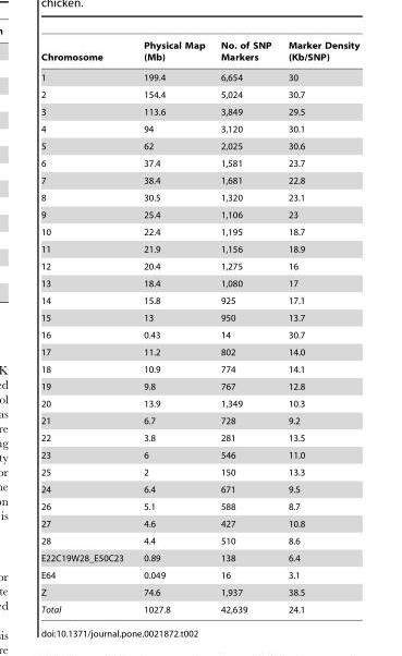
<table><thead><tr><td>Chromosome</td><td>Physical Map (Mb)</td><td>No. of SNP Markers</td><td>Marker Density (Kb/SNP)</td></tr></thead><tbody><tr><td>1</td><td>199.4</td><td>6,654</td><td>30</td></tr><tr><td>2</td><td>154.4</td><td>5,024</td><td>30.7</td></tr><tr><td>3</td><td>113.6</td><td>3,849</td><td>29.5</td></tr><tr><td>4</td><td>94</td><td>3,120</td><td>30.1</td></tr><tr><td>5</td><td>62</td><td>2,025</td><td>30.6</td></tr><tr><td>6</td><td>37.4</td><td>1,581</td><td>23.7</td></tr><tr><td>7</td><td>38.4</td><td>1,681</td><td>22.8</td></tr><tr><td>8</td><td>30.5</td><td>1,320</td><td>23.1</td></tr><tr><td>9</td><td>25.4</td><td>1,106</td><td>23</td></tr><tr><td>10</td><td>22.4</td><td>1,195</td><td>18.7</td></tr><tr><td>11</td><td>21.9</td><td>1,156</td><td>18.9</td></tr><tr><td>12</td><td>20.4</td><td>1,275</td><td>16</td></tr><tr><td>13</td><td>18.4</td><td>1,080</td><td>17</td></tr><tr><td>14</td><td>15.8</td><td>925</td><td>17.1</td></tr><tr><td>15</td><td>13</td><td>950</td><td>13.7</td></tr><tr><td>16</td><td>0.43</td><td>14</td><td>30.7</td></tr><tr><td>17</td><td>11.2</td><td>802</td><td>14.0</td></tr><tr><td>18</td><td>10.9</td><td>774</td><td>14.1</td></tr><tr><td>19</td><td>9.8</td><td>767</td><td>12.8</td></tr><tr><td>20</td><td>13.9</td><td>1,349</td><td>10.3</td></tr><tr><td>21</td><td>6.7</td><td>728</td><td>9.2</td></tr><tr><td>22</td><td>3.8</td><td>281</td><td>13.5</td></tr><tr><td>23</td><td>6</td><td>546</td><td>11.0</td></tr><tr><td>25</td><td>2</td><td>150</td><td>13.3</td></tr><tr><td>24</td><td>6.4</td><td>671</td><td>9.5</td></tr><tr><td>26</td><td>5.1</td><td>588</td><td>8.7</td></tr><tr><td>27</td><td>4.6</td><td>427</td><td>10.8</td></tr><tr><td>28</td><td>4.4</td><td>510</td><td>8.6</td></tr><tr><td>E22C19W28_E50C23</td><td>0.89</td><td>138</td><td>6.4</td></tr><tr><td>E64</td><td>0.049</td><td>16</td><td>3.1</td></tr><tr><td>Z</td><td>74.6</td><td>1,937</td><td>38.5</td></tr><tr><td>Total</td><td>1027.8</td><td>42,639</td><td>24.1</td></tr></tbody></table>